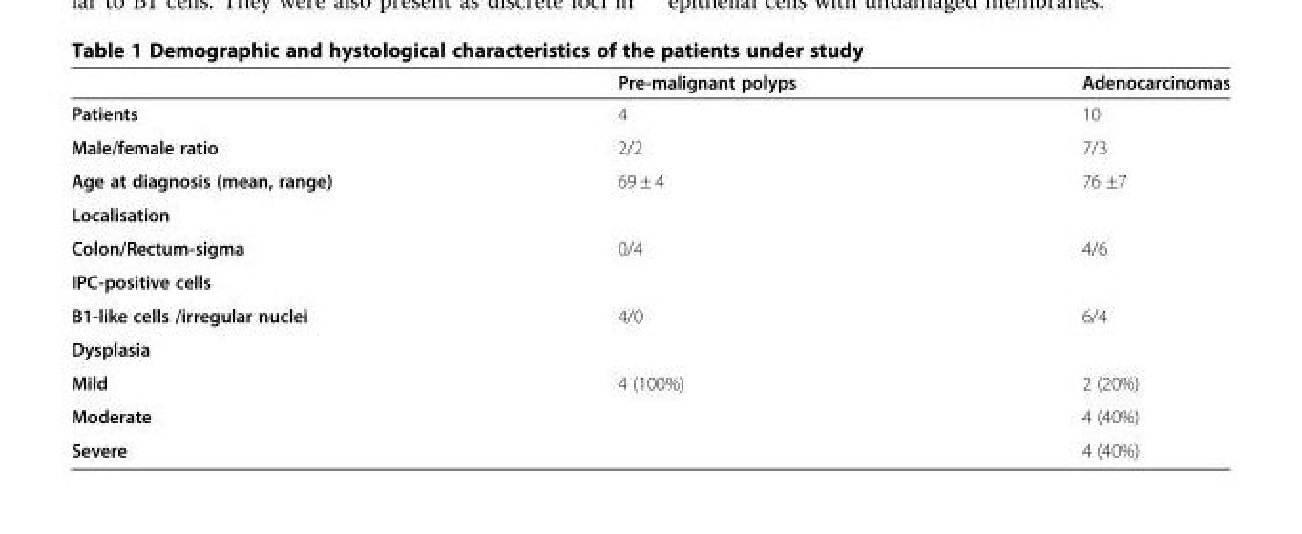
<table><thead><tr><td></td><td>Pre-malignant polyps</td><td>Adenocarcinomas</td></tr></thead><tbody><tr><td>Patients</td><td>4</td><td>10</td></tr><tr><td>Male/female ratio</td><td>2/2</td><td>7/3</td></tr><tr><td>Age at diagnosis (mean, range)</td><td>69 ± 4</td><td>76 ±7</td></tr><tr><td colspan="3">Localisation</td></tr><tr><td>Colon/Rectum-sigma</td><td>0/4</td><td>4/6</td></tr><tr><td colspan="3">IPC-positive cells</td></tr><tr><td>B1-like cells /irregular nuclei</td><td>4/0</td><td>6/4</td></tr><tr><td colspan="3">Dysplasia</td></tr><tr><td>Mild</td><td>4 (100%)</td><td>2 (20%)</td></tr><tr><td>Moderate</td><td></td><td>4 (40%)</td></tr><tr><td>Severe</td><td></td><td>4 (40%)</td></tr></tbody></table>